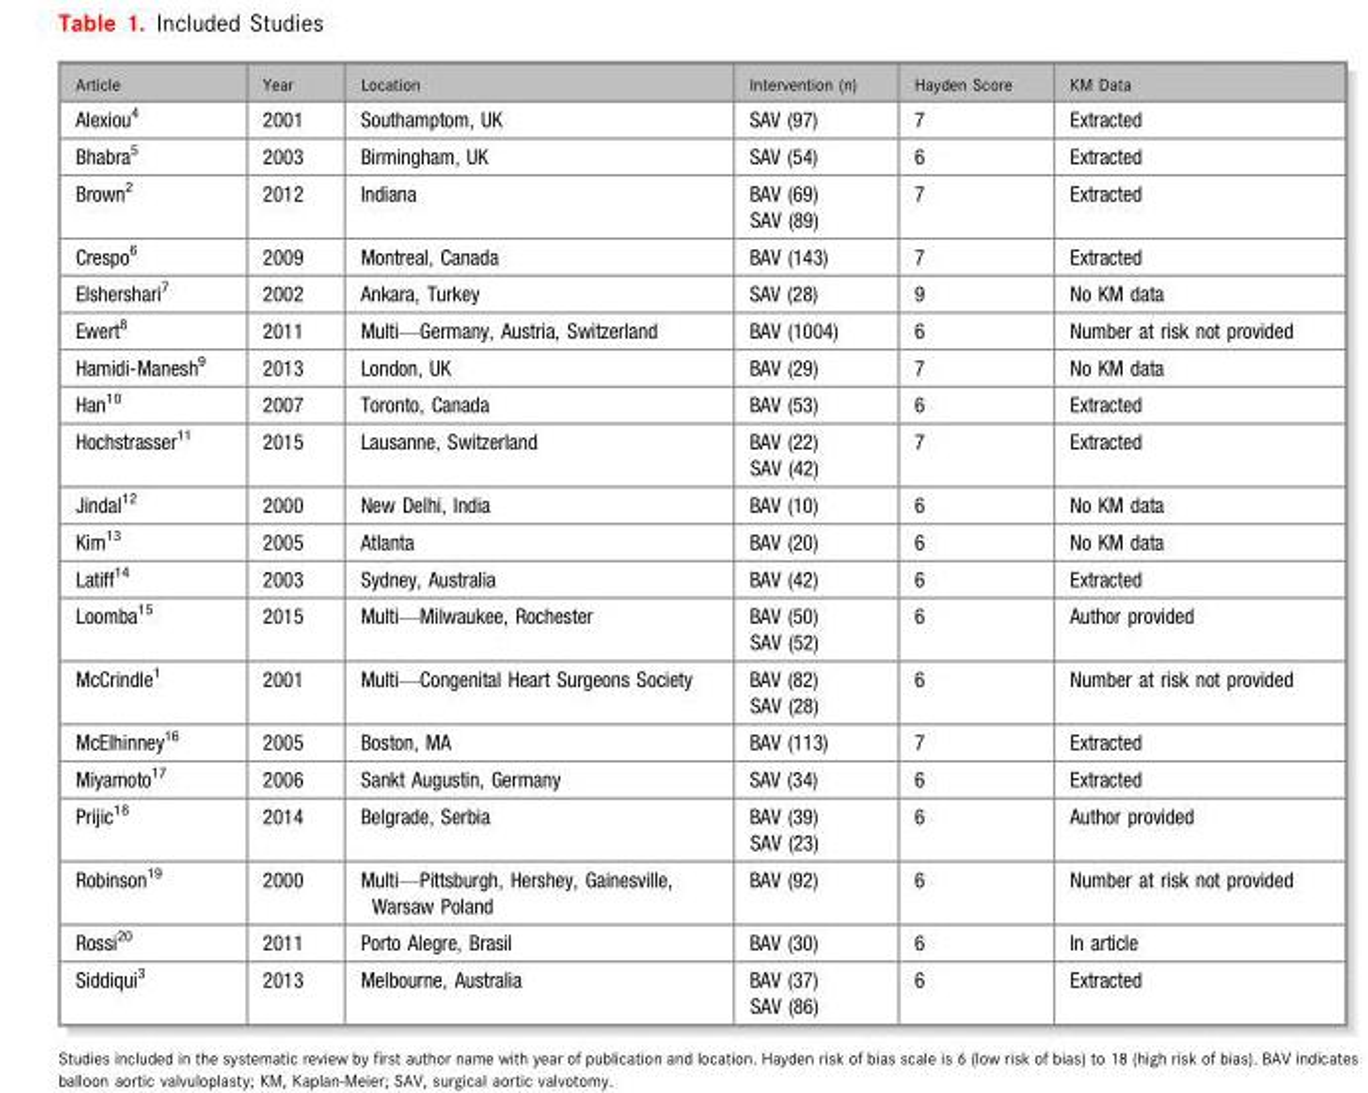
<table><thead><tr><td>Article</td><td>Year</td><td>Location</td><td>Intervention (n)</td><td>Hayden Score</td><td>KM Data</td></tr></thead><tbody><tr><td>Alexiou<sup>4</sup></td><td>2001</td><td>Southamptom, UK</td><td>SAV (97)</td><td>7</td><td>Extracted</td></tr><tr><td>Bhabra<sup>5</sup></td><td>2003</td><td>Birmingham, UK</td><td>SAV (54)</td><td>6</td><td>Extracted</td></tr><tr><td>Brown<sup>2</sup></td><td>2012</td><td>Indiana</td><td>BAV (69) SAV (89)</td><td>7</td><td>Extracted</td></tr><tr><td>Crespo<sup>6</sup></td><td>2009</td><td>Montreal, Canada</td><td>BAV (143)</td><td>7</td><td>Extracted</td></tr><tr><td>Elshershari<sup>7</sup></td><td>2002</td><td>Ankara, Turkey</td><td>SAV (28)</td><td>9</td><td>No KM data</td></tr><tr><td>Ewert<sup>8</sup></td><td>2011</td><td>Multi—Germany, Austria, Switzerland</td><td>BAV (1004)</td><td>6</td><td>Number at risk not provided</td></tr><tr><td>Hamidi-Manesh<sup>9</sup></td><td>2013</td><td>London, UK</td><td>BAV (29)</td><td>7</td><td>No KM data</td></tr><tr><td>Han<sup>10</sup></td><td>2007</td><td>Toronto, Canada</td><td>BAV (53)</td><td>6</td><td>Extracted</td></tr><tr><td>Hochstrasser<sup>11</sup></td><td>2015</td><td>Lausanne, Switzerland</td><td>BAV (22) SAV (42)</td><td>7</td><td>Extracted</td></tr><tr><td>Jindal<sup>12</sup></td><td>2000</td><td>New Delhi, India</td><td>BAV (10)</td><td>6</td><td>No KM data</td></tr><tr><td>Kim<sup>13</sup></td><td>2005</td><td>Atlanta</td><td>BAV (20)</td><td>6</td><td>No KM data</td></tr><tr><td>Latiff<sup>14</sup></td><td>2003</td><td>Sydney, Australia</td><td>BAV (42)</td><td>6</td><td>Extracted</td></tr><tr><td>Loomba<sup>15</sup></td><td>2015</td><td>Multi—Milwaukee, Rochester</td><td>BAV (50) SAV (52)</td><td>6</td><td>Author provided</td></tr><tr><td>McCrindle<sup>1</sup></td><td>2001</td><td>Multi—Congenital Heart Surgeons Society</td><td>BAV (82) SAV (28)</td><td>6</td><td>Number at risk not provided</td></tr><tr><td>McElhinney<sup>16</sup></td><td>2005</td><td>Boston, MA</td><td>BAV (113)</td><td>7</td><td>Extracted</td></tr><tr><td>Miyamoto<sup>17</sup></td><td>2006</td><td>Sankt Augustin, Germany</td><td>SAV (34)</td><td>6</td><td>Extracted</td></tr><tr><td>Prijic<sup>18</sup></td><td>2014</td><td>Belgrade, Serbia</td><td>BAV (39) SAV (23)</td><td>6</td><td>Author provided</td></tr><tr><td>Robinson<sup>19</sup></td><td>2000</td><td>Multi—Pittsburgh, Hershey, Gainesville, Warsaw Poland</td><td>BAV (92)</td><td>6</td><td>Number at risk not provided</td></tr><tr><td>Rossi<sup>20</sup></td><td>2011</td><td>Porto Alegre, Brasil</td><td>BAV (30)</td><td>6</td><td>In article</td></tr><tr><td>Siddiqui<sup>3</sup></td><td>2013</td><td>Melbourne, Australia</td><td>BAV (37) SAV (86)</td><td>6</td><td>Extracted</td></tr></tbody></table>